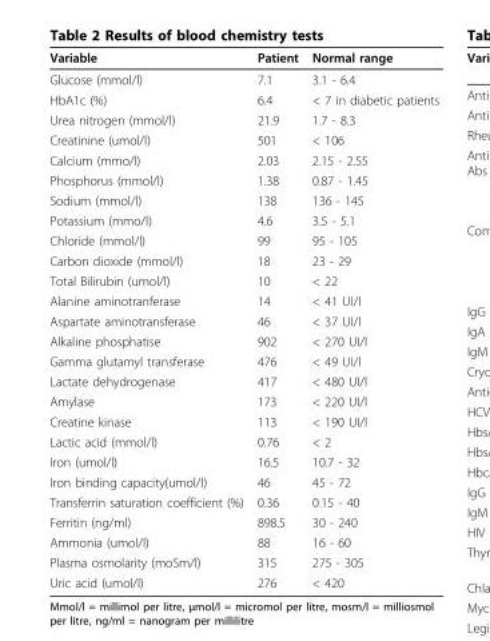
<table><thead><tr><td>Variable</td><td>Patient</td><td>Normal range</td></tr></thead><tbody><tr><td>Glucose (mmol/l)</td><td>7.1</td><td>3.1 - 6.4</td></tr><tr><td>HbA1c (%)</td><td>6.4</td><td>&lt; 7 in diabetic patients</td></tr><tr><td>Urea nitrogen (mmol/l)</td><td>21.9</td><td>1.7 - 8.3</td></tr><tr><td>Creatinine (umol/l)</td><td>501</td><td>&lt; 106</td></tr><tr><td>Calcium (mmo/l)</td><td>2.03</td><td>2.15 - 2.55</td></tr><tr><td>Phosphorus (mmol/l)</td><td>1.38</td><td>0.87 - 1.45</td></tr><tr><td>Sodium (mmol/l)</td><td>138</td><td>136 - 145</td></tr><tr><td>Potassium (mmo/l)</td><td>4.6</td><td>3.5 - 5.1</td></tr><tr><td>Chloride (mmol/l)</td><td>99</td><td>95 - 105</td></tr><tr><td>Carbon dioxide (mmol/l)</td><td>18</td><td>23 - 29</td></tr><tr><td>Total Bilirubin (umol/l)</td><td>10</td><td>&lt; 22</td></tr><tr><td>Alanine aminotranferase</td><td>14</td><td>&lt; 41 UI/l</td></tr><tr><td>Aspartate aminotransferase</td><td>46</td><td>&lt; 37 UI/l</td></tr><tr><td>Alkaline phosphatise</td><td>902</td><td>&lt; 270 UI/l</td></tr><tr><td>Gamma glutamyl transferase</td><td>476</td><td>&lt; 49 UI/l</td></tr><tr><td>Lactate dehydrogenase</td><td>417</td><td>&lt; 480 UI/l</td></tr><tr><td>Amylase</td><td>173</td><td>&lt; 220 UI/l</td></tr><tr><td>Creatine kinase</td><td>113</td><td>&lt; 190 UI/l</td></tr><tr><td>Lactic acid (mmol/l)</td><td>0.76</td><td>&lt; 2</td></tr><tr><td>Iron (umol/l)</td><td>16.5</td><td>10.7 - 32</td></tr><tr><td>Iron binding capacity(umol/l)</td><td>46</td><td>45 - 72</td></tr><tr><td>Transferrin saturation coefficient (%)</td><td>0.36</td><td>0.15 - 40</td></tr><tr><td>Ferritin (ng/ml)</td><td>898.5</td><td>30 - 240</td></tr><tr><td>Ammonia (umol/l)</td><td>88</td><td>16 - 60</td></tr><tr><td>Plasma osmolarity (moSm/l)</td><td>315</td><td>275 - 305</td></tr><tr><td>Uric acid (umol/l)</td><td>276</td><td>&lt; 420</td></tr></tbody></table>